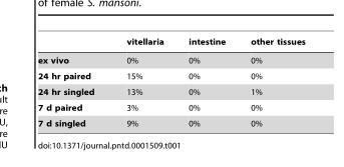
<table><thead><tr><td></td><td>vitellaria</td><td>intestine</td><td>other tissues</td></tr></thead><tbody><tr><td>ex vivo</td><td>0%</td><td>0%</td><td>0%</td></tr><tr><td>24 hr paired</td><td>15%</td><td>0%</td><td>0%</td></tr><tr><td>24 hr singled</td><td>13%</td><td>0%</td><td>1%</td></tr><tr><td>7 d paired</td><td>3%</td><td>0%</td><td>0%</td></tr><tr><td>7 d singled</td><td>9%</td><td>0%</td><td>0%</td></tr></tbody></table>